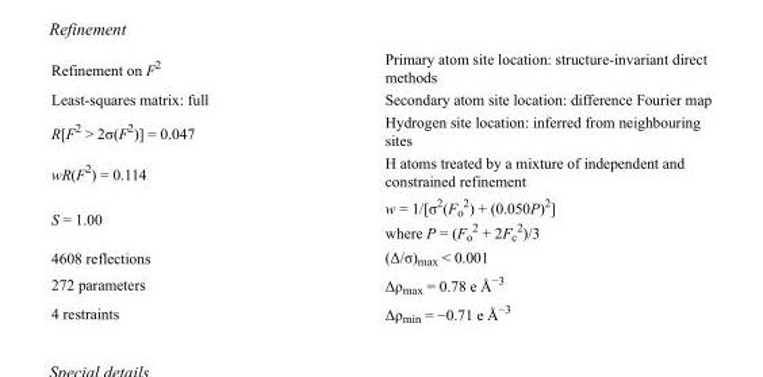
<table><tbody><tr><td>Refinement on F<sup>2</sup></td><td>Primary atom site location: structure-invariant direct methods</td></tr><tr><td>Least-squares matrix: full</td><td>Secondary atom site location: difference Fourier map</td></tr><tr><td>R[F<sup>2</sup> &gt; 2σ(F<sup>2</sup>)] = 0.047</td><td>Hydrogen site location: inferred from neighbouring sites</td></tr><tr><td>wR(F<sup>2</sup>) = 0.114</td><td>H atoms treated by a mixture of independent and constrained refinement</td></tr><tr><td>S = 1.00</td><td>w = 1/[σ<sup>2</sup>(F<sub>o</sub> <sup>2</sup>) + (0.050P)<sup>2</sup>] where P = (F<sub>o</sub> <sup>2</sup> + 2F<sub>c</sub> <sup>2</sup>)/3</td></tr><tr><td>4608 reflections</td><td>(Δ/σ)<sub>max</sub> &lt; 0.001</td></tr><tr><td>272 parameters</td><td>Δρ<sub>max</sub> = 0.78 e Å<sup>−3</sup></td></tr><tr><td>4 restraints</td><td>Δρ<sub>min</sub> = −0.71 e Å<sup>−3</sup></td></tr></tbody></table>